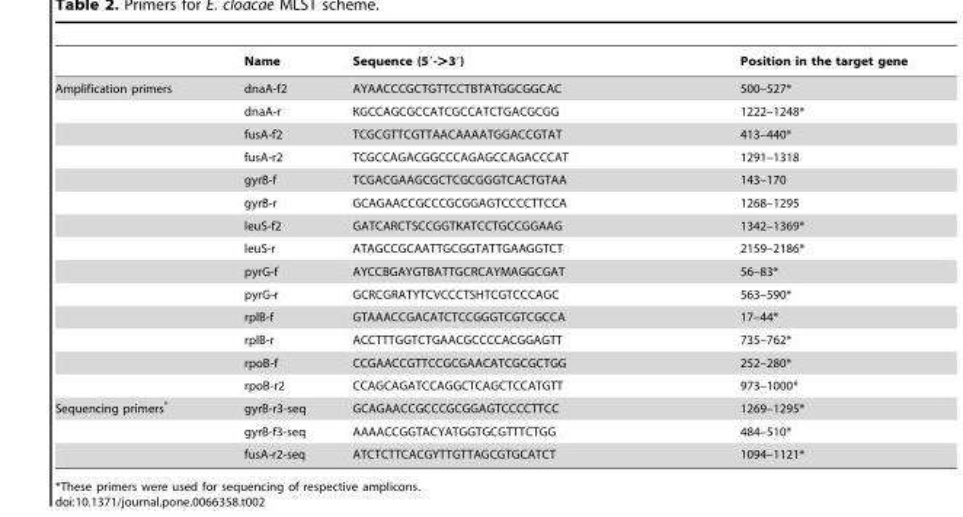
<table><thead><tr><td></td><td>Name</td><td>Sequence (5′-&gt;3′)</td><td>Position in the target gene</td></tr></thead><tbody><tr><td rowspan="14">Amplification primers</td><td>dnaA-f2</td><td>AYAACCCGCTGTTCCTBTATGGCGGCAC</td><td>500–527*</td></tr><tr><td>dnaA-r</td><td>KGCCAGCGCCATCGCCATCTGACGCGG</td><td>1222–1248*</td></tr><tr><td>fusA-f2</td><td>TCGCGTTCGTTAACAAAATGGACCGTAT</td><td>413–440*</td></tr><tr><td>fusA-r2</td><td>TCGCCAGACGGCCCAGAGCCAGACCCAT</td><td>1291–1318</td></tr><tr><td>gyrB-f</td><td>TCGACGAAGCGCTCGCGGGTCACTGTAA</td><td>143–170</td></tr><tr><td>gyrB-r</td><td>GCAGAACCGCCCGCGGAGTCCCCTTCCA</td><td>1268–1295</td></tr><tr><td>leuS-f2</td><td>GATCARCTSCCGGTKATCCTGCCGGAAG</td><td>1342–1369*</td></tr><tr><td>leuS-r</td><td>ATAGCCGCAATTGCGGTATTGAAGGTCT</td><td>2159–2186*</td></tr><tr><td>pyrG-f</td><td>AYCCBGAYGTBATTGCRCAYMAGGCGAT</td><td>56–83*</td></tr><tr><td>pyrG-r</td><td>GCRCGRATYTCVCCCTSHTCGTCCCAGC</td><td>563–590*</td></tr><tr><td>rplB-f</td><td>GTAAACCGACATCTCCGGGTCGTCGCCA</td><td>17–44*</td></tr><tr><td>rplB-r</td><td>ACCTTTGGTCTGAACGCCCCACGGAGTT</td><td>735–762*</td></tr><tr><td>rpoB-f</td><td>CCGAACCGTTCCGCGAACATCGCGCTGG</td><td>252–280*</td></tr><tr><td>rpoB-r2</td><td>CCAGCAGATCCAGGCTCAGCTCCATGTT</td><td>973–1000*</td></tr><tr><td rowspan="3">Sequencing primers*</td><td>gyrB-r3-seq</td><td>GCAGAACCGCCCGCGGAGTCCCCTTCC</td><td>1269–1295*</td></tr><tr><td>gyrB-f3-seq</td><td>AAAACCGGTACYATGGTGCGTTTCTGG</td><td>484–510*</td></tr><tr><td>fusA-r2-seq</td><td>ATCTCTTCACGYTTGTTAGCGTGCATCT</td><td>1094–1121*</td></tr></tbody></table>